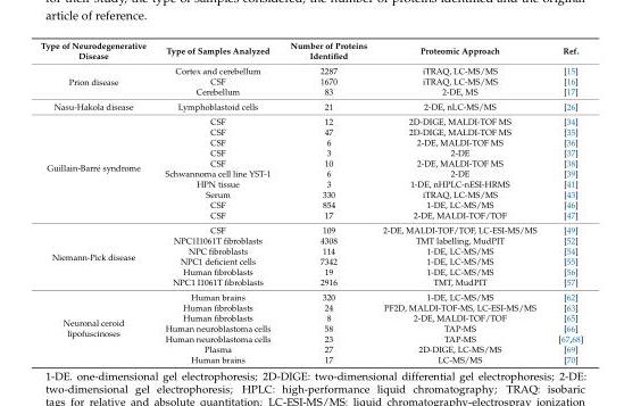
<table><thead><tr><td>Type of Neurodegenerative Disease</td><td>Type of Samples Analyzed</td><td>Number of Proteins Identified</td><td>Proteomic Approach</td><td>Ref.</td></tr></thead><tbody><tr><td rowspan="3">Prion disease</td><td>Cortex and cerebellum</td><td>2287</td><td>iTRAQ, LC-MS/MS</td><td>[15]</td></tr><tr><td>CSF</td><td>1670</td><td>iTRAQ, LC-MS/MS</td><td>[16]</td></tr><tr><td>Cerebellum</td><td>83</td><td>2-DE, MS</td><td>[17]</td></tr><tr><td>Nasu-Hakola disease</td><td>Lymphoblastoid cells</td><td>21</td><td>2-DE, nLC-MS/MS</td><td>[26]</td></tr><tr><td rowspan="10">Guillain-Barré syndrome</td><td>CSF</td><td>12</td><td>2D-DIGE, MALDI-TOF MS</td><td>[34]</td></tr><tr><td>CSF</td><td>47</td><td>2D-DIGE, MALDI-TOF MS</td><td>[35]</td></tr><tr><td>CSF</td><td>6</td><td>2-DE, MALDI-TOF MS</td><td>[36]</td></tr><tr><td>CSF</td><td>3</td><td>2-DE</td><td>[37]</td></tr><tr><td>CSF</td><td>10</td><td>2-DE, MALDI-TOF MS</td><td>[38]</td></tr><tr><td>Schwannoma cell line YST-1</td><td>6</td><td>2-DE</td><td>[39]</td></tr><tr><td>HPN tissue</td><td>3</td><td>1-DE, nHPLC-nESI-HRMS</td><td>[41]</td></tr><tr><td>Serum</td><td>330</td><td>iTRAQ, LC-MS/MS</td><td>[43]</td></tr><tr><td>CSF</td><td>854</td><td>1-DE, LC-MS/MS</td><td>[46]</td></tr><tr><td>CSF</td><td>17</td><td>2-DE, MALDI-TOF/TOF</td><td>[47]</td></tr><tr><td rowspan="6">Niemann-Pick disease</td><td>CSF</td><td>109</td><td>2-DE, MALDI-TOF/TOF, LC-ESI-MS/MS</td><td>[49]</td></tr><tr><td>NPC1I1061T fibroblasts</td><td>4308</td><td>TMT labelling, MudPIT</td><td>[52]</td></tr><tr><td>NPC fibroblasts</td><td>114</td><td>1-DE, LC-MS/MS</td><td>[54]</td></tr><tr><td>NPC1 deficient cells</td><td>7342</td><td>1-DE, LC-MS/MS</td><td>[55]</td></tr><tr><td>Human fibroblasts</td><td>19</td><td>1-DE, LC-MS/MS</td><td>[56]</td></tr><tr><td>NPC1 I1061T fibroblasts</td><td>2916</td><td>TMT, MudPIT</td><td>[57]</td></tr><tr><td rowspan="7">Neuronal ceroid lipofuscinoses</td><td>Human brains</td><td>320</td><td>1-DE, LC-MS/MS</td><td>[62]</td></tr><tr><td>Human fibroblasts</td><td>24</td><td>PF2D, MALDI-TOF-MS, LC-ESI-MS/MS</td><td>[63]</td></tr><tr><td>Human fibroblasts</td><td>8</td><td>2-DE, MALDI-TOF/TOF</td><td>[65]</td></tr><tr><td>Human neuroblastoma cells</td><td>58</td><td>TAP-MS</td><td>[66]</td></tr><tr><td>Human neuroblastoma cells</td><td>23</td><td>TAP-MS</td><td>[67,68]</td></tr><tr><td>Plasma</td><td>27</td><td>2D-DIGE, LC-MS/MS</td><td>[69]</td></tr><tr><td>Human brains</td><td>17</td><td>LC-MS/MS</td><td>[70]</td></tr></tbody></table>